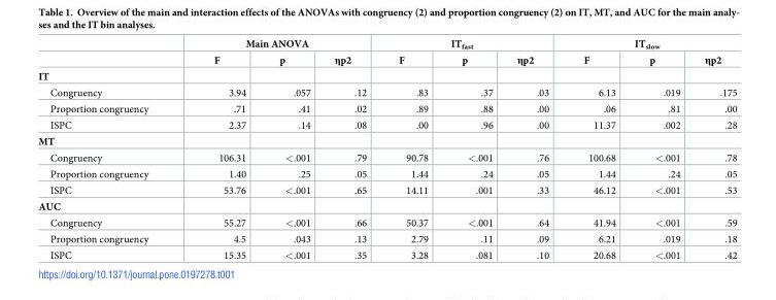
<table><thead><tr><td rowspan="2"></td><td colspan="3">Main ANOVA</td><td colspan="3">IT<sub>fast</sub></td><td colspan="3">IT<sub>slow</sub></td></tr><tr><td>F</td><td>p</td><td>ηp2</td><td>F</td><td>p</td><td>ηp2</td><td>F</td><td>p</td><td>ηp2</td></tr></thead><tbody><tr><td colspan="10">IT</td></tr><tr><td>Congruency</td><td>3.94</td><td>.057</td><td>.12</td><td>.83</td><td>.37</td><td>.03</td><td>6.13</td><td>.019</td><td>.175</td></tr><tr><td>Proportion congruency</td><td>.71</td><td>.41</td><td>.02</td><td>.89</td><td>.88</td><td>.00</td><td>.06</td><td>.81</td><td>.00</td></tr><tr><td>ISPC</td><td>2.37</td><td>.14</td><td>.08</td><td>.00</td><td>.96</td><td>.00</td><td>11.37</td><td>.002</td><td>.28</td></tr><tr><td colspan="10">MT</td></tr><tr><td>Congruency</td><td>106.31</td><td>&lt;.001</td><td>.79</td><td>90.78</td><td>&lt;.001</td><td>.76</td><td>100.68</td><td>&lt;.001</td><td>.78</td></tr><tr><td>Proportion congruency</td><td>1.40</td><td>.25</td><td>.05</td><td>1.44</td><td>.24</td><td>.05</td><td>1.44</td><td>.24</td><td>.05</td></tr><tr><td>ISPC</td><td>53.76</td><td>&lt;.001</td><td>.65</td><td>14.11</td><td>.001</td><td>.33</td><td>46.12</td><td>&lt;.001</td><td>.53</td></tr><tr><td colspan="10">AUC</td></tr><tr><td>Congruency</td><td>55.27</td><td>&lt;.001</td><td>.66</td><td>50.37</td><td>&lt;.001</td><td>.64</td><td>41.94</td><td>&lt;.001</td><td>.59</td></tr><tr><td>Proportion congruency</td><td>4.5</td><td>.043</td><td>.13</td><td>2.79</td><td>.11</td><td>.09</td><td>6.21</td><td>.019</td><td>.18</td></tr><tr><td>ISPC</td><td>15.35</td><td>&lt;.001</td><td>.35</td><td>3.28</td><td>.081</td><td>.10</td><td>20.68</td><td>&lt;.001</td><td>.42</td></tr></tbody></table>